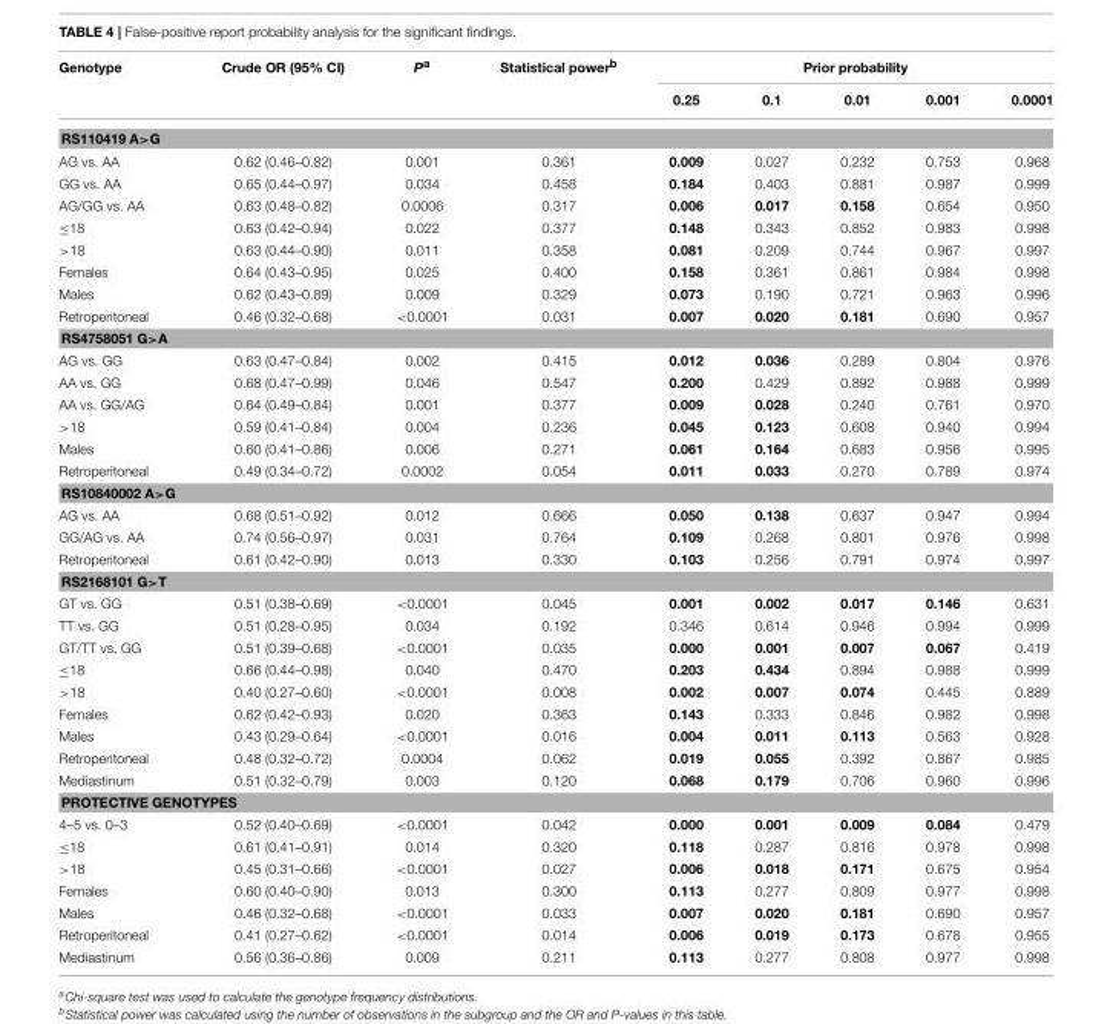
<table><thead><tr><td rowspan="2">Genotype</td><td rowspan="2">Crude OR (95% CI)</td><td rowspan="2">P<sup>a</sup></td><td rowspan="2">Statistical power<sup>b</sup></td><td colspan="5">Prior probability</td></tr><tr><td>0.25</td><td>0.1</td><td>0.01</td><td>0.001</td><td>0.0001</td></tr></thead><tbody><tr><td colspan="9">RS110419 A&gt;G</td></tr><tr><td>AG vs. AA</td><td>0.62 (0.46–0.82)</td><td>0.001</td><td>0.361</td><td>0.009</td><td>0.027</td><td>0.232</td><td>0.753</td><td>0.968</td></tr><tr><td>GG vs. AA</td><td>0.65 (0.44–0.97)</td><td>0.034</td><td>0.458</td><td>0.184</td><td>0.403</td><td>0.881</td><td>0.987</td><td>0.999</td></tr><tr><td>AG/GG vs. AA</td><td>0.63 (0.48–0.82)</td><td>0.0006</td><td>0.317</td><td>0.006</td><td>0.017</td><td>0.158</td><td>0.654</td><td>0.950</td></tr><tr><td>≤18</td><td>0.63 (0.42–0.94)</td><td>0.022</td><td>0.377</td><td>0.148</td><td>0.343</td><td>0.852</td><td>0.983</td><td>0.998</td></tr><tr><td>&gt;18</td><td>0.63 (0.44–0.90)</td><td>0.011</td><td>0.358</td><td>0.081</td><td>0.209</td><td>0.744</td><td>0.967</td><td>0.997</td></tr><tr><td>Females</td><td>0.64 (0.43–0.95)</td><td>0.025</td><td>0.400</td><td>0.158</td><td>0.361</td><td>0.861</td><td>0.984</td><td>0.998</td></tr><tr><td>Males</td><td>0.62 (0.43–0.89)</td><td>0.009</td><td>0.329</td><td>0.073</td><td>0.190</td><td>0.721</td><td>0.963</td><td>0.996</td></tr><tr><td>Retroperitoneal</td><td>0.46 (0.32–0.68)</td><td>&lt;0.0001</td><td>0.031</td><td>0.007</td><td>0.020</td><td>0.181</td><td>0.690</td><td>0.957</td></tr><tr><td colspan="9">RS4758051 G&gt;A</td></tr><tr><td>AG vs. GG</td><td>0.63 (0.47–0.84)</td><td>0.002</td><td>0.415</td><td>0.012</td><td>0.036</td><td>0.289</td><td>0.804</td><td>0.976</td></tr><tr><td>AA vs. GG</td><td>0.68 (0.47–0.99)</td><td>0.046</td><td>0.547</td><td>0.200</td><td>0.429</td><td>0.892</td><td>0.988</td><td>0.999</td></tr><tr><td>AA vs. GG/AG</td><td>0.64 (0.49–0.84)</td><td>0.001</td><td>0.377</td><td>0.009</td><td>0.028</td><td>0.240</td><td>0.761</td><td>0.970</td></tr><tr><td>&gt;18</td><td>0.59 (0.41–0.84)</td><td>0.004</td><td>0.236</td><td>0.045</td><td>0.123</td><td>0.608</td><td>0.940</td><td>0.994</td></tr><tr><td>Males</td><td>0.60 (0.41–0.86)</td><td>0.006</td><td>0.271</td><td>0.061</td><td>0.164</td><td>0.683</td><td>0.956</td><td>0.995</td></tr><tr><td>Retroperitoneal</td><td>0.49 (0.34–0.72)</td><td>0.0002</td><td>0.054</td><td>0.011</td><td>0.033</td><td>0.270</td><td>0.789</td><td>0.974</td></tr><tr><td colspan="9">RS10840002 A&gt;G</td></tr><tr><td>AG vs. AA</td><td>0.68 (0.51–0.92)</td><td>0.012</td><td>0.666</td><td>0.050</td><td>0.138</td><td>0.637</td><td>0.947</td><td>0.994</td></tr><tr><td>GG/AG vs. AA</td><td>0.74 (0.56–0.97)</td><td>0.031</td><td>0.764</td><td>0.109</td><td>0.268</td><td>0.801</td><td>0.976</td><td>0.998</td></tr><tr><td>Retroperitoneal</td><td>0.61 (0.42–0.90)</td><td>0.013</td><td>0.330</td><td>0.103</td><td>0.256</td><td>0.791</td><td>0.974</td><td>0.997</td></tr><tr><td colspan="9">RS2168101 G&gt;T</td></tr><tr><td>GT vs. GG</td><td>0.51 (0.38–0.69)</td><td>&lt;0.0001</td><td>0.045</td><td>0.001</td><td>0.002</td><td>0.017</td><td>0.146</td><td>0.631</td></tr><tr><td>TT vs. GG</td><td>0.51 (0.28–0.95)</td><td>0.034</td><td>0.192</td><td>0.346</td><td>0.614</td><td>0.946</td><td>0.994</td><td>0.999</td></tr><tr><td>GT/TT vs. GG</td><td>0.51 (0.39–0.68)</td><td>&lt;0.0001</td><td>0.035</td><td>0.000</td><td>0.001</td><td>0.007</td><td>0.067</td><td>0.419</td></tr><tr><td>≤18</td><td>0.66 (0.44–0.98)</td><td>0.040</td><td>0.470</td><td>0.203</td><td>0.434</td><td>0.894</td><td>0.988</td><td>0.999</td></tr><tr><td>&gt;18</td><td>0.40 (0.27–0.60)</td><td>&lt;0.0001</td><td>0.008</td><td>0.002</td><td>0.007</td><td>0.074</td><td>0.445</td><td>0.889</td></tr><tr><td>Females</td><td>0.62 (0.42–0.93)</td><td>0.020</td><td>0.363</td><td>0.143</td><td>0.333</td><td>0.846</td><td>0.982</td><td>0.998</td></tr><tr><td>Males</td><td>0.43 (0.29–0.64)</td><td>&lt;0.0001</td><td>0.016</td><td>0.004</td><td>0.011</td><td>0.113</td><td>0.563</td><td>0.928</td></tr><tr><td>Retroperitoneal</td><td>0.48 (0.32–0.72)</td><td>0.0004</td><td>0.062</td><td>0.019</td><td>0.055</td><td>0.392</td><td>0.867</td><td>0.985</td></tr><tr><td>Mediastinum</td><td>0.51 (0.32–0.79)</td><td>0.003</td><td>0.120</td><td>0.068</td><td>0.179</td><td>0.706</td><td>0.960</td><td>0.996</td></tr><tr><td colspan="9">PROTECTIVE GENOTYPES</td></tr><tr><td>4–5 vs. 0–3</td><td>0.52 (0.40–0.69)</td><td>&lt;0.0001</td><td>0.042</td><td>0.000</td><td>0.001</td><td>0.009</td><td>0.084</td><td>0.479</td></tr><tr><td>≤18</td><td>0.61 (0.41–0.91)</td><td>0.014</td><td>0.320</td><td>0.118</td><td>0.287</td><td>0.816</td><td>0.978</td><td>0.998</td></tr><tr><td>&gt;18</td><td>0.45 (0.31–0.66)</td><td>&lt;0.0001</td><td>0.027</td><td>0.006</td><td>0.018</td><td>0.171</td><td>0.675</td><td>0.954</td></tr><tr><td>Females</td><td>0.60 (0.40–0.90)</td><td>0.013</td><td>0.300</td><td>0.113</td><td>0.277</td><td>0.809</td><td>0.977</td><td>0.998</td></tr><tr><td>Males</td><td>0.46 (0.32–0.68)</td><td>&lt;0.0001</td><td>0.033</td><td>0.007</td><td>0.020</td><td>0.181</td><td>0.690</td><td>0.957</td></tr><tr><td>Retroperitoneal</td><td>0.41 (0.27–0.62)</td><td>&lt;0.0001</td><td>0.014</td><td>0.006</td><td>0.019</td><td>0.173</td><td>0.678</td><td>0.955</td></tr><tr><td>Mediastinum</td><td>0.56 (0.36–0.86)</td><td>0.009</td><td>0.211</td><td>0.113</td><td>0.277</td><td>0.808</td><td>0.977</td><td>0.998</td></tr></tbody></table>